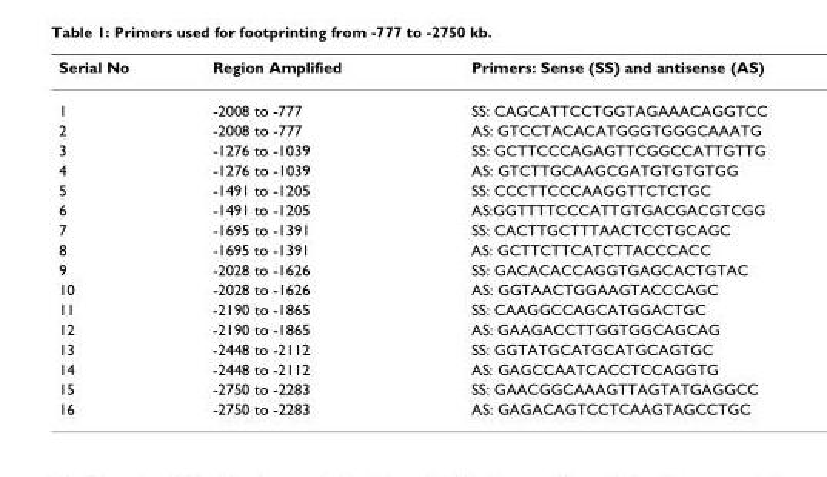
<table><thead><tr><td>Serial No</td><td>Region Amplified</td><td>Primers: Sense (SS) and antisense (AS)</td></tr></thead><tbody><tr><td>1</td><td>-2008 to -777</td><td>SS: CAGCATTCCTGGTAGAAACAGGTCC</td></tr><tr><td>2</td><td>-2008 to -777</td><td>AS: GTCCTACACATGGGTGGGCAAATG</td></tr><tr><td>3</td><td>-1276 to -1039</td><td>SS: GCTTCCCAGAGTTCGGCCATTGTTG</td></tr><tr><td>4</td><td>-1276 to -1039</td><td>AS: GTCTTGCAAGCGATGTGTGTGG</td></tr><tr><td>5</td><td>-1491 to -1205</td><td>SS: CCCTTCCCAAGGTTCTCTGC</td></tr><tr><td>6</td><td>-1491 to -1205</td><td>AS:GGTTTTCCCATTGTGACGACGTCGG</td></tr><tr><td>7</td><td>-1695 to -1391</td><td>SS: CACTTGCTTTAACTCCTGCAGC</td></tr><tr><td>8</td><td>-1695 to -1391</td><td>AS: GCTTCTTCATCTTACCCACC</td></tr><tr><td>9</td><td>-2028 to -1626</td><td>SS: GACACACCAGGTGAGCACTGTAC</td></tr><tr><td>10</td><td>-2028 to -1626</td><td>AS: GGTAACTGGAAGTACCCAGC</td></tr><tr><td>11</td><td>-2190 to -1865</td><td>SS: CAAGGCCAGCATGGACTGC</td></tr><tr><td>12</td><td>-2190 to -1865</td><td>AS: GAAGACCTTGGTGGCAGCAG</td></tr><tr><td>13</td><td>-2448 to -2112</td><td>SS: GGTATGCATGCATGCAGTGC</td></tr><tr><td>14</td><td>-2448 to -2112</td><td>AS: GAGCCAATCACCTCCAGGTG</td></tr><tr><td>15</td><td>-2750 to -2283</td><td>SS: GAACGGCAAAGTTAGTATGAGGCC</td></tr><tr><td>16</td><td>-2750 to -2283</td><td>AS: GAGACAGTCCTCAAGTAGCCTGC</td></tr></tbody></table>